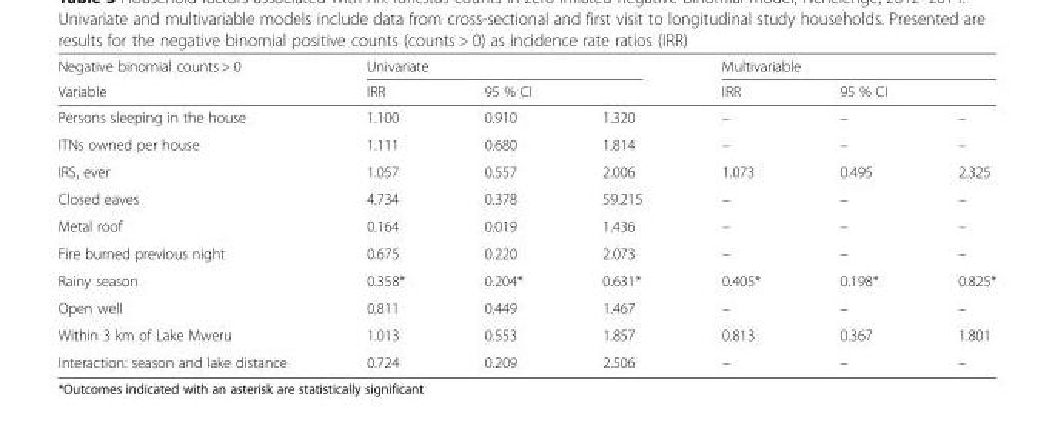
<table><thead><tr><td rowspan="3">Negative binomial counts &gt; 0 Variable Persons sleeping in the house</td><td colspan="3">Univariate</td><td colspan="3">Multivariable</td></tr><tr><td rowspan="2">IRR 1.100</td><td colspan="2">95 % CI</td><td rowspan="2">IRR –</td><td colspan="2">95 % CI</td></tr><tr><td>0.910</td><td>1.320</td><td>–</td><td>–</td></tr></thead><tbody><tr><td>ITNs owned per house</td><td>1.111</td><td>0.680</td><td>1.814</td><td>–</td><td>–</td><td>–</td></tr><tr><td>IRS, ever</td><td>1.057</td><td>0.557</td><td>2.006</td><td>1.073</td><td>0.495</td><td>2.325</td></tr><tr><td>Closed eaves</td><td>4.734</td><td>0.378</td><td>59.215</td><td>–</td><td>–</td><td>–</td></tr><tr><td>Metal roof</td><td>0.164</td><td>0.019</td><td>1.436</td><td>–</td><td>–</td><td>–</td></tr><tr><td>Fire burned previous night</td><td>0.675</td><td>0.220</td><td>2.073</td><td>–</td><td>–</td><td>–</td></tr><tr><td>Rainy season</td><td>0.358*</td><td>0.204*</td><td>0.631*</td><td>0.405*</td><td>0.198*</td><td>0.825*</td></tr><tr><td>Open well</td><td>0.811</td><td>0.449</td><td>1.467</td><td>–</td><td>–</td><td>–</td></tr><tr><td>Within 3 km of Lake Mweru</td><td>1.013</td><td>0.553</td><td>1.857</td><td>0.813</td><td>0.367</td><td>1.801</td></tr><tr><td>Interaction: season and lake distance</td><td>0.724</td><td>0.209</td><td>2.506</td><td>–</td><td>–</td><td>–</td></tr></tbody></table>